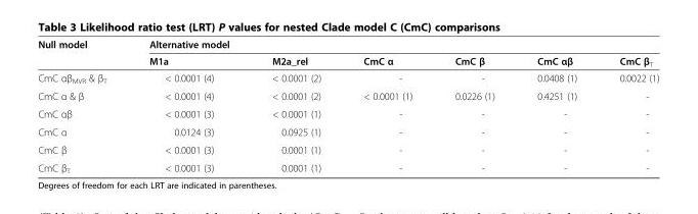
<table><thead><tr><td rowspan="2">Null model</td><td rowspan="2">Alternative model M1a</td><td rowspan="2">M2a_rel</td><td rowspan="2">CmC α</td><td rowspan="2">CmC β</td><td rowspan="2">CmC αβ</td><td rowspan="2">CmC β<sub>T</sub></td></tr><tr></tr></thead><tbody><tr><td>CmC αβ<sub>MVR</sub> &amp; β<sub>T</sub></td><td>&lt; 0.0001 (4)</td><td>&lt; 0.0001 (2)</td><td>-</td><td>-</td><td>0.0408 (1)</td><td>0.0022 (1)</td></tr><tr><td>CmC α &amp; β</td><td>&lt; 0.0001 (4)</td><td>&lt; 0.0001 (2)</td><td>&lt; 0.0001 (1)</td><td>0.0226 (1)</td><td>0.4251 (1)</td><td>-</td></tr><tr><td>CmC αβ</td><td>&lt; 0.0001 (3)</td><td>&lt; 0.0001 (1)</td><td>-</td><td>-</td><td>-</td><td>-</td></tr><tr><td>CmC α</td><td>0.0124 (3)</td><td>0.0925 (1)</td><td>-</td><td>-</td><td>-</td><td>-</td></tr><tr><td>CmC β</td><td>&lt; 0.0001 (3)</td><td>0.0001 (1)</td><td>-</td><td>-</td><td>-</td><td>-</td></tr><tr><td>CmC β<sub>T</sub></td><td>&lt; 0.0001 (3)</td><td>0.0001 (1)</td><td>-</td><td>-</td><td>-</td><td>-</td></tr></tbody></table>